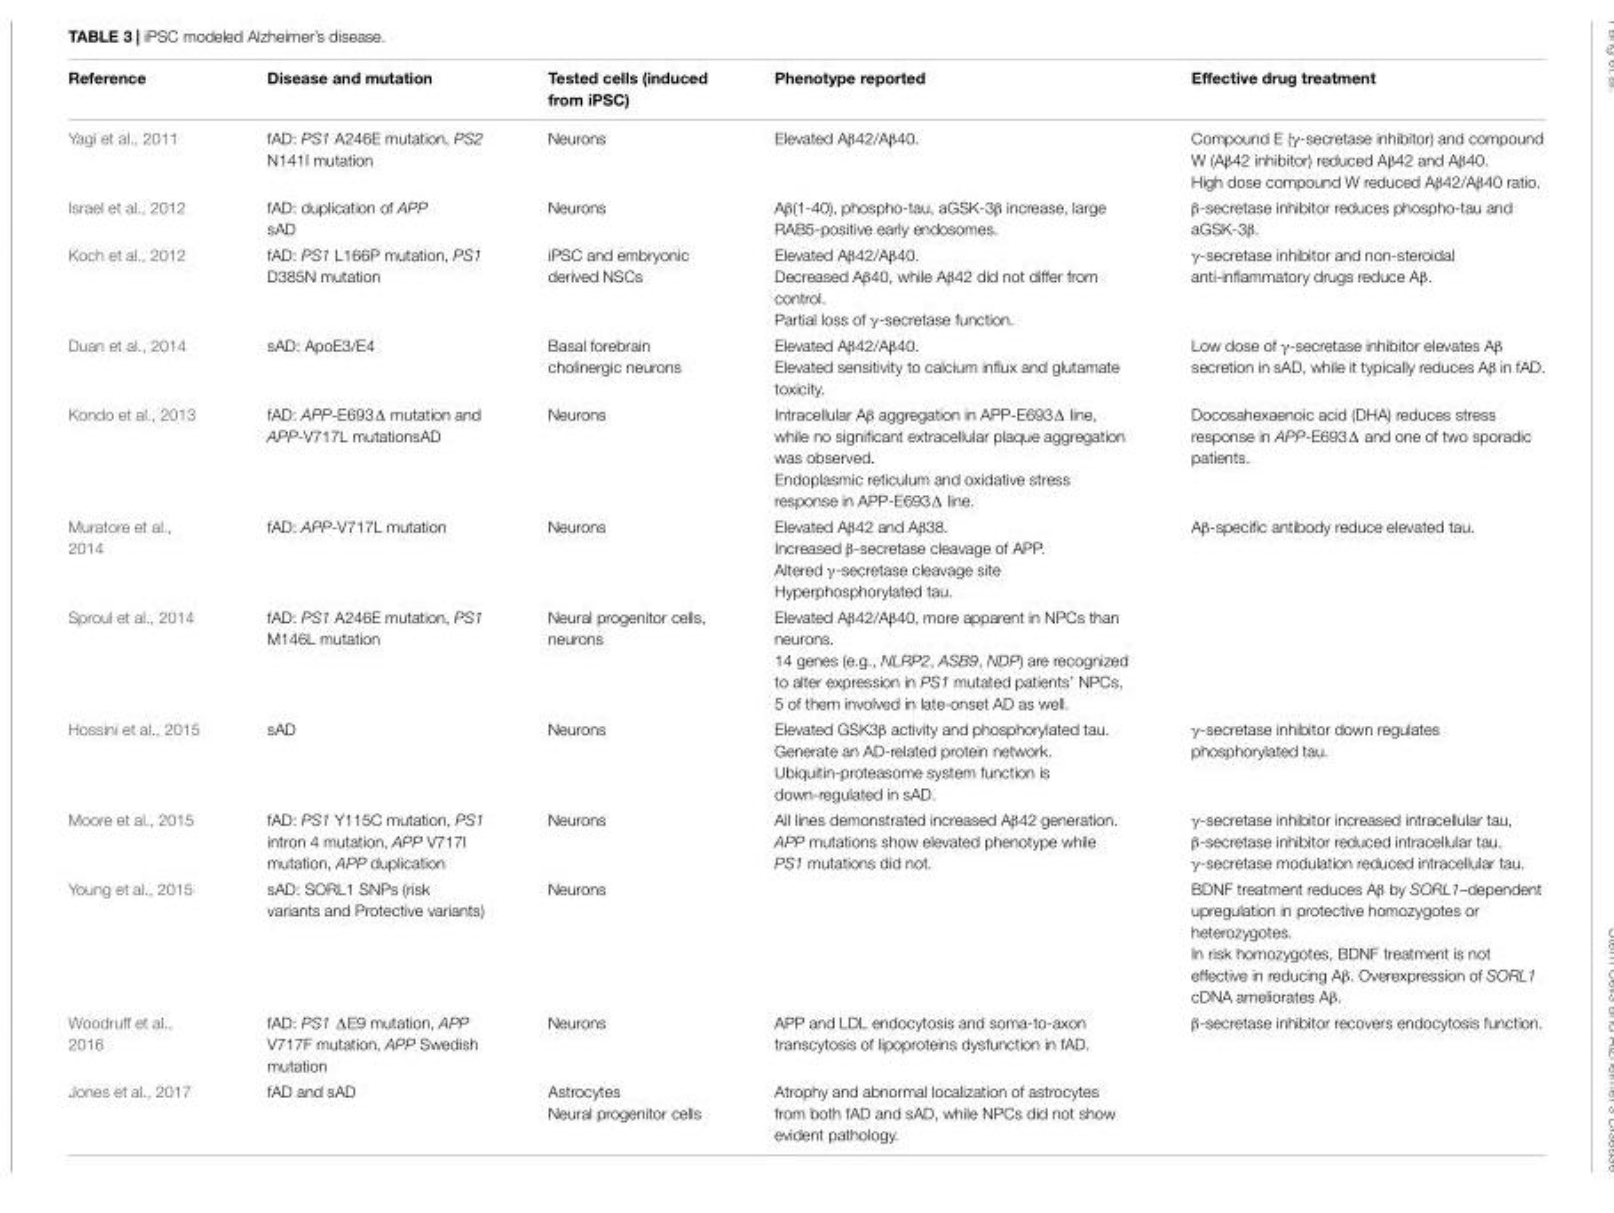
<table><thead><tr><td>Reference</td><td>Disease and mutation</td><td>Tested cells (induced from iPSC)</td><td>Phenotype reported</td><td>Effective drug treatment</td></tr></thead><tbody><tr><td>Yagi et al., 2011</td><td>fAD: PS1 A246E mutation, PS2 N141I mutation</td><td>Neurons</td><td>Elevated Aβ42/Aβ40.</td><td>Compound E (γ-secretase inhibitor) and compound W (Aβ42 inhibitor) reduced Aβ42 and Aβ40. High dose compound W reduced Aβ42/Aβ40 ratio.</td></tr><tr><td>Israel et al., 2012</td><td>fAD: duplication of APP sAD</td><td>Neurons</td><td>Aβ(1-40), phospho-tau, aGSK-3β increase, large RAB5-positive early endosomes.</td><td>β-secretase inhibitor reduces phospho-tau and aGSK-3β.</td></tr><tr><td>Koch et al., 2012</td><td>fAD: PS1 L166P mutation, PS1 D385N mutation</td><td>iPSC and embryonic derived NSCs</td><td>Elevated Aβ42/Aβ40. Decreased Aβ40, while Aβ42 did not differ from control. Partial loss of γ-secretase function.</td><td>γ-secretase inhibitor and non-steroidal anti-inflammatory drugs reduce Aβ.</td></tr><tr><td>Duan et al., 2014</td><td>sAD: ApoE3/E4</td><td>Basal forebrain cholinergic neurons</td><td>Elevated Aβ42/Aβ40. Elevated sensitivity to calcium influx and glutamate toxicity.</td><td>Low dose of γ-secretase inhibitor elevates Aβ secretion in sAD, while it typically reduces Aβ in fAD.</td></tr><tr><td>Kondo et al., 2013</td><td>fAD: APP-E693Δ mutation and APP-V717L mutationsAD</td><td>Neurons</td><td>Intracellular Aβ aggregation in APP-E693Δ line, while no significant extracellular plaque aggregation was observed. Endoplasmic reticulum and oxidative stress response in APP-E693Δ line.</td><td>Docosahexaenoic acid (DHA) reduces stress response in APP-E693Δ and one of two sporadic patients.</td></tr><tr><td>Muratore et al., 2014</td><td>fAD: APP-V717L mutation</td><td>Neurons</td><td>Elevated Aβ42 and Aβ38. Increased β-secretase cleavage of APP. Altered γ-secretase cleavage site Hyperphosphorylated tau.</td><td>Aβ-specific antibody reduce elevated tau.</td></tr><tr><td>Sproul et al., 2014</td><td>fAD: PS1 A246E mutation, PS1 M146L mutation</td><td>Neural progenitor cells, neurons</td><td>Elevated Aβ42/Aβ40, more apparent in NPCs than neurons. 14 genes (e.g., NLRP2, ASB9, NDP) are recognized to alter expression in PS1 mutated patients’ NPCs, 5 of them involved in late-onset AD as well.</td><td></td></tr><tr><td>Hossini et al., 2015</td><td>sAD</td><td>Neurons</td><td>Elevated GSK3β activity and phosphorylated tau. Generate an AD-related protein network. Ubiquitin-proteasome system function is down-regulated in sAD.</td><td>γ-secretase inhibitor down regulates phosphorylated tau.</td></tr><tr><td>Moore et al., 2015</td><td>fAD: PS1 Y115C mutation, PS1 intron 4 mutation, APP V717I mutation, APP duplication</td><td>Neurons</td><td>All lines demonstrated increased Aβ42 generation. APP mutations show elevated phenotype while PS1 mutations did not.</td><td>γ-secretase inhibitor increased intracellular tau, β-secretase inhibitor reduced intracellular tau. γ-secretase modulation reduced intracellular tau.</td></tr><tr><td>Young et al., 2015</td><td>sAD: SORL1 SNPs (risk variants and Protective variants)</td><td>Neurons</td><td></td><td>BDNF treatment reduces Aβ by SORL1–dependent upregulation in protective homozygotes or heterozygotes. In risk homozygotes, BDNF treatment is not effective in reducing Aβ. Overexpression of SORL1 cDNA ameliorates Aβ.</td></tr><tr><td>Woodruff et al., 2016</td><td>fAD: PS1 ΔE9 mutation, APP V717F mutation, APP Swedish mutation</td><td>Neurons</td><td>APP and LDL endocytosis and soma-to-axon transcytosis of lipoproteins dysfunction in fAD.</td><td>β-secretase inhibitor recovers endocytosis function.</td></tr><tr><td>Jones et al., 2017</td><td>fAD and sAD</td><td>Astrocytes Neural progenitor cells</td><td>Atrophy and abnormal localization of astrocytes from both fAD and sAD, while NPCs did not show evident pathology.</td><td></td></tr></tbody></table>